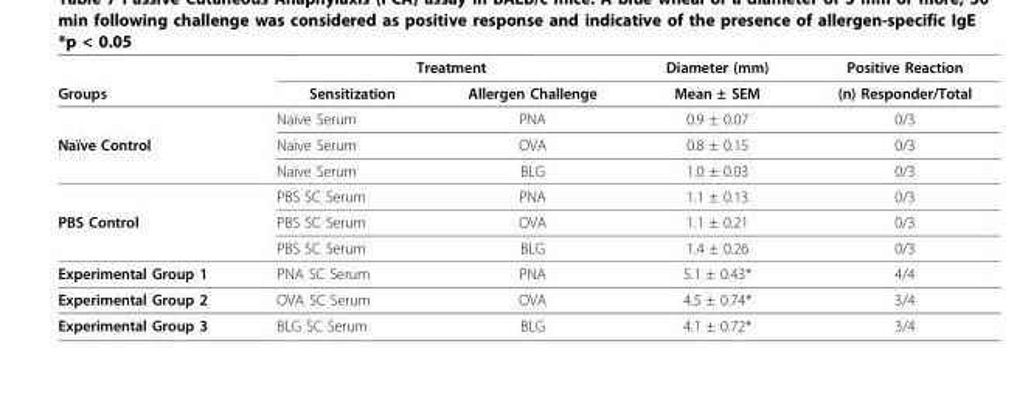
<table><thead><tr><td rowspan="2">Groups</td><td colspan="2">Treatment</td><td rowspan="2">Diameter (mm) Mean ± SEM</td><td rowspan="2">Positive Reaction (n) Responder/Total</td></tr><tr><td>Sensitization</td><td>Allergen Challenge</td></tr></thead><tbody><tr><td></td><td>Naïve Serum</td><td>PNA</td><td>0.9 ± 0.07</td><td>0/3</td></tr><tr><td rowspan="3">Naïve Control</td><td>Naïve Serum</td><td>OVA</td><td>0.8 ± 0.15</td><td>0/3</td></tr><tr><td>Naïve Serum</td><td>BLG</td><td>1.0 ± 0.03</td><td>0/3</td></tr><tr><td>PBS SC Serum</td><td>PNA</td><td>1.1 ± 0.13</td><td>0/3</td></tr><tr><td rowspan="2">PBS Control</td><td>PBS SC Serum</td><td>OVA</td><td>1.1 ± 0.21</td><td>0/3</td></tr><tr><td>PBS SC Serum</td><td>BLG</td><td>1.4 ± 0.26</td><td>0/3</td></tr><tr><td>Experimental Group 1</td><td>PNA SC Serum</td><td>PNA</td><td>5.1 ± 0.43*</td><td>4/4</td></tr><tr><td>Experimental Group 2</td><td>OVA SC Serum</td><td>OVA</td><td>4.5 ± 0.74*</td><td>3/4</td></tr><tr><td>Experimental Group 3</td><td>BLG SC Serum</td><td>BLG</td><td>4.1 ± 0.72*</td><td>3/4</td></tr></tbody></table>